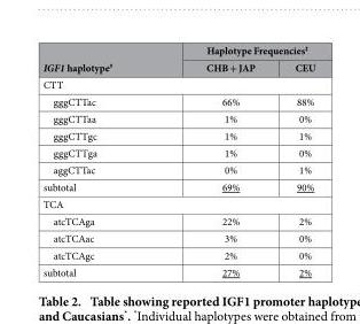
<table><thead><tr><td rowspan="2">IGF1 haplotype#</td><td colspan="2">Haplotype Frequencies‡</td></tr><tr><td>CHB + JAP</td><td>CEU</td></tr></thead><tbody><tr><td colspan="3">CTT</td></tr><tr><td>gggCTTac</td><td>66%</td><td>88%</td></tr><tr><td>gggCTTaa</td><td>1%</td><td>0%</td></tr><tr><td>gggCTTgc</td><td>1%</td><td>1%</td></tr><tr><td>gggCTTga</td><td>1%</td><td>0%</td></tr><tr><td>aggCTTac</td><td>0%</td><td>1%</td></tr><tr><td>subtotal</td><td>69%</td><td>90%</td></tr><tr><td colspan="3">TCA</td></tr><tr><td>atcTCAga</td><td>22%</td><td>2%</td></tr><tr><td>atcTCAac</td><td>3%</td><td>0%</td></tr><tr><td>atcTCAgc</td><td>2%</td><td>0%</td></tr><tr><td>subtotal</td><td>27%</td><td>2%</td></tr></tbody></table>